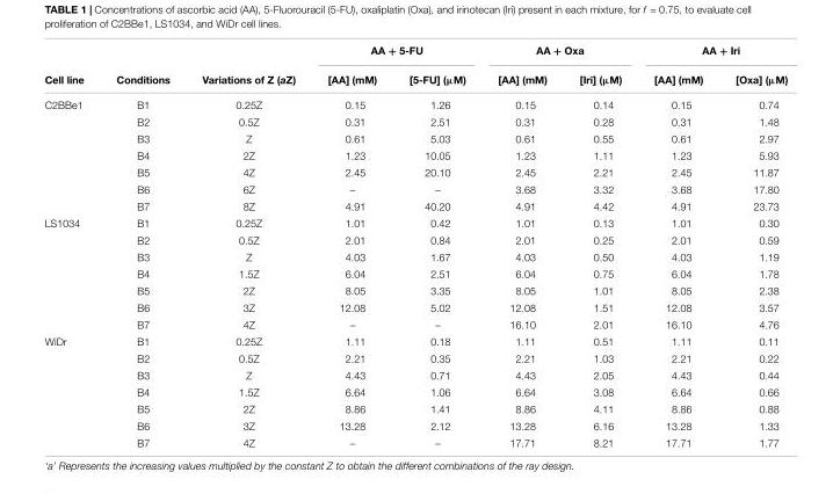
<table><thead><tr><td rowspan="2">Cell line</td><td rowspan="2">Conditions</td><td rowspan="2">Variations of Z (aZ)</td><td colspan="2">AA + 5-FU</td><td colspan="2">AA + Oxa</td><td colspan="2">AA + Iri</td></tr><tr><td>[AA] (mM)</td><td>[5-FU] (µM)</td><td>[AA] (mM)</td><td>[Iri] (µM)</td><td>[AA] (mM)</td><td>[Oxa] (µM)</td></tr></thead><tbody><tr><td rowspan="7">C2BBe1</td><td>B1</td><td>0.25Z</td><td>0.15</td><td>1.26</td><td>0.15</td><td>0.14</td><td>0.15</td><td>0.74</td></tr><tr><td>B2</td><td>0.5Z</td><td>0.31</td><td>2.51</td><td>0.31</td><td>0.28</td><td>0.31</td><td>1.48</td></tr><tr><td>B3</td><td>Z</td><td>0.61</td><td>5.03</td><td>0.61</td><td>0.55</td><td>0.61</td><td>2.97</td></tr><tr><td>B4</td><td>2Z</td><td>1.23</td><td>10.05</td><td>1.23</td><td>1.11</td><td>1.23</td><td>5.93</td></tr><tr><td>B5</td><td>4Z</td><td>2.45</td><td>20.10</td><td>2.45</td><td>2.21</td><td>2.45</td><td>11.87</td></tr><tr><td>B6</td><td>6Z</td><td>–</td><td>–</td><td>3.68</td><td>3.32</td><td>3.68</td><td>17.80</td></tr><tr><td>B7</td><td>8Z</td><td>4.91</td><td>40.20</td><td>4.91</td><td>4.42</td><td>4.91</td><td>23.73</td></tr><tr><td rowspan="7">LS1034</td><td>B1</td><td>0.25Z</td><td>1.01</td><td>0.42</td><td>1.01</td><td>0.13</td><td>1.01</td><td>0.30</td></tr><tr><td>B2</td><td>0.5Z</td><td>2.01</td><td>0.84</td><td>2.01</td><td>0.25</td><td>2.01</td><td>0.59</td></tr><tr><td>B3</td><td>Z</td><td>4.03</td><td>1.67</td><td>4.03</td><td>0.50</td><td>4.03</td><td>1.19</td></tr><tr><td>B4</td><td>1.5Z</td><td>6.04</td><td>2.51</td><td>6.04</td><td>0.75</td><td>6.04</td><td>1.78</td></tr><tr><td>B5</td><td>2Z</td><td>8.05</td><td>3.35</td><td>8.05</td><td>1.01</td><td>8.05</td><td>2.38</td></tr><tr><td>B6</td><td>3Z</td><td>12.08</td><td>5.02</td><td>12.08</td><td>1.51</td><td>12.08</td><td>3.57</td></tr><tr><td>B7</td><td>4Z</td><td>–</td><td>–</td><td>16.10</td><td>2.01</td><td>16.10</td><td>4.76</td></tr><tr><td rowspan="7">WiDr</td><td>B1</td><td>0.25Z</td><td>1.11</td><td>0.18</td><td>1.11</td><td>0.51</td><td>1.11</td><td>0.11</td></tr><tr><td>B2</td><td>0.5Z</td><td>2.21</td><td>0.35</td><td>2.21</td><td>1.03</td><td>2.21</td><td>0.22</td></tr><tr><td>B3</td><td>Z</td><td>4.43</td><td>0.71</td><td>4.43</td><td>2.05</td><td>4.43</td><td>0.44</td></tr><tr><td>B4</td><td>1.5Z</td><td>6.64</td><td>1.06</td><td>6.64</td><td>3.08</td><td>6.64</td><td>0.66</td></tr><tr><td>B5</td><td>2Z</td><td>8.86</td><td>1.41</td><td>8.86</td><td>4.11</td><td>8.86</td><td>0.88</td></tr><tr><td>B6</td><td>3Z</td><td>13.28</td><td>2.12</td><td>13.28</td><td>6.16</td><td>13.28</td><td>1.33</td></tr><tr><td>B7</td><td>4Z</td><td>–</td><td>–</td><td>17.71</td><td>8.21</td><td>17.71</td><td>1.77</td></tr></tbody></table>